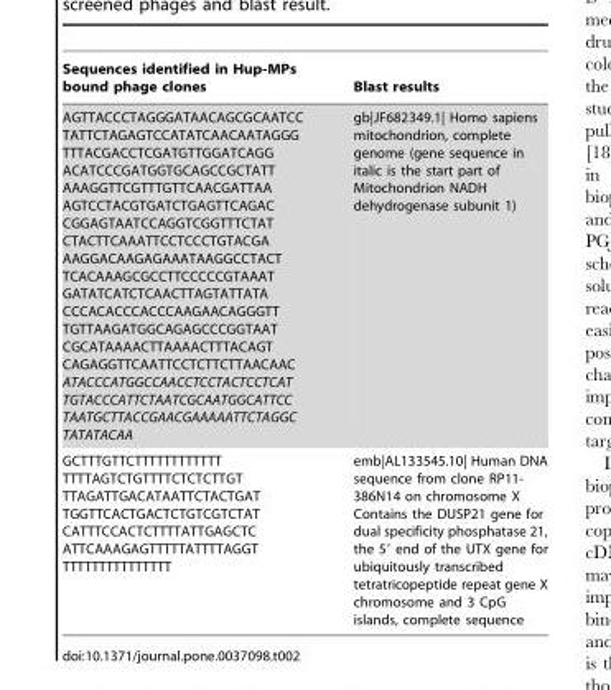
<table><thead><tr><td>Sequences identified in Hup-MPs bound phage clones</td><td>Blast results</td></tr></thead><tbody><tr><td>AGTTACCCTAGGGATAACAGCGCAATCC TATTCTAGAGTCCATATCAACAATAGGG TTTACGACCTCGATGTTGGATCAGG ACATCCCGATGGTGCAGCCGCTATT AAAGGTTCGTTTGTTCAACGATTAA AGTCCTACGTGATCTGAGTTCAGAC CGGAGTAATCCAGGTCGGTTTCTAT CTACTTCAAATTCCTCCCTGTACGA AAGGACAAGAGAAATAAGGCCTACT TCACAAAGCGCCTTCCCCCGTAAAT GATATCATCTCAACTTAGTATTATA CCCACACCCACCCAAGAACAGGGTT TGTTAAGATGGCAGAGCCCGGTAAT CGCATAAAACTTAAAACTTTACAGT CAGAGGTTCAATTCCTCTTCTTAACAAC ATACCCATGGCCAACCTCCTACTCCTCAT TGTACCCATTCTAATCGCAATGGCATTCC TAATGCTTACCGAACGAAAAATTCTAGGC TATATACAA</td><td>gb|JF682349.1| Homo sapiens mitochondrion, complete genome (gene sequence in italic is the start part of Mitochondrion NADH dehydrogenase subunit 1)</td></tr><tr><td>GCTTTGTTCTTTTTTTTTTTT TTTTAGTCTGTTTTCTCTCTTGT TTAGATTGACATAATTCTACTGAT TGGTTCACTGACTCTGTCGTCTAT CATTTCCACTCTTTTATTGAGCTC ATTCAAAGAGTTTTTATTTTAGGT TTTTTTTTTTTTTTT</td><td>emb|AL133545.10| Human DNA sequence from clone RP11- 386N14 on chromosome X Contains the DUSP21 gene for dual specificity phosphatase 21, the 5′ end of the UTX gene for ubiquitously transcribed tetratricopeptide repeat gene X chromosome and 3 CpG islands, complete sequence</td></tr></tbody></table>